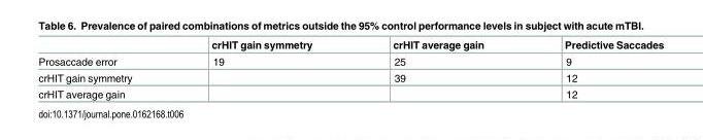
<table><thead><tr><td></td><td>crHIT gain symmetry</td><td>crHIT average gain</td><td>Predictive Saccades</td></tr></thead><tbody><tr><td>Prosaccade error</td><td>19</td><td>25</td><td>9</td></tr><tr><td>crHIT gain symmetry</td><td></td><td>39</td><td>12</td></tr><tr><td>crHIT average gain</td><td></td><td></td><td>12</td></tr></tbody></table>